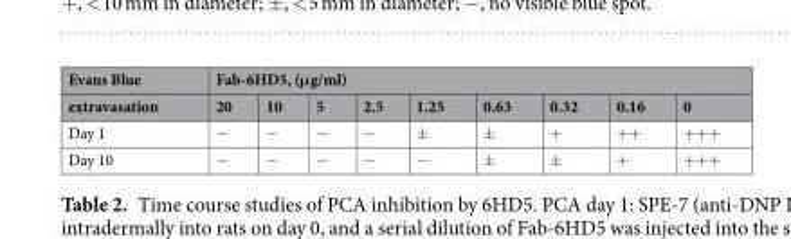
<table><thead><tr><td rowspan="2">Evans Blue extravasation</td><td colspan="9">Fab-6HD5, (μg/ml)</td></tr><tr><td>20</td><td>10</td><td>5</td><td>2.5</td><td>1.25</td><td>0.63</td><td>0.32</td><td>0.16</td><td>0</td></tr></thead><tbody><tr><td>Day 1</td><td>−</td><td>−</td><td>−</td><td>−</td><td>±</td><td>±</td><td>+</td><td>++</td><td>+++</td></tr><tr><td>Day 10</td><td>−</td><td>−</td><td>−</td><td>−</td><td>−</td><td>±</td><td>±</td><td>+</td><td>+++</td></tr></tbody></table>